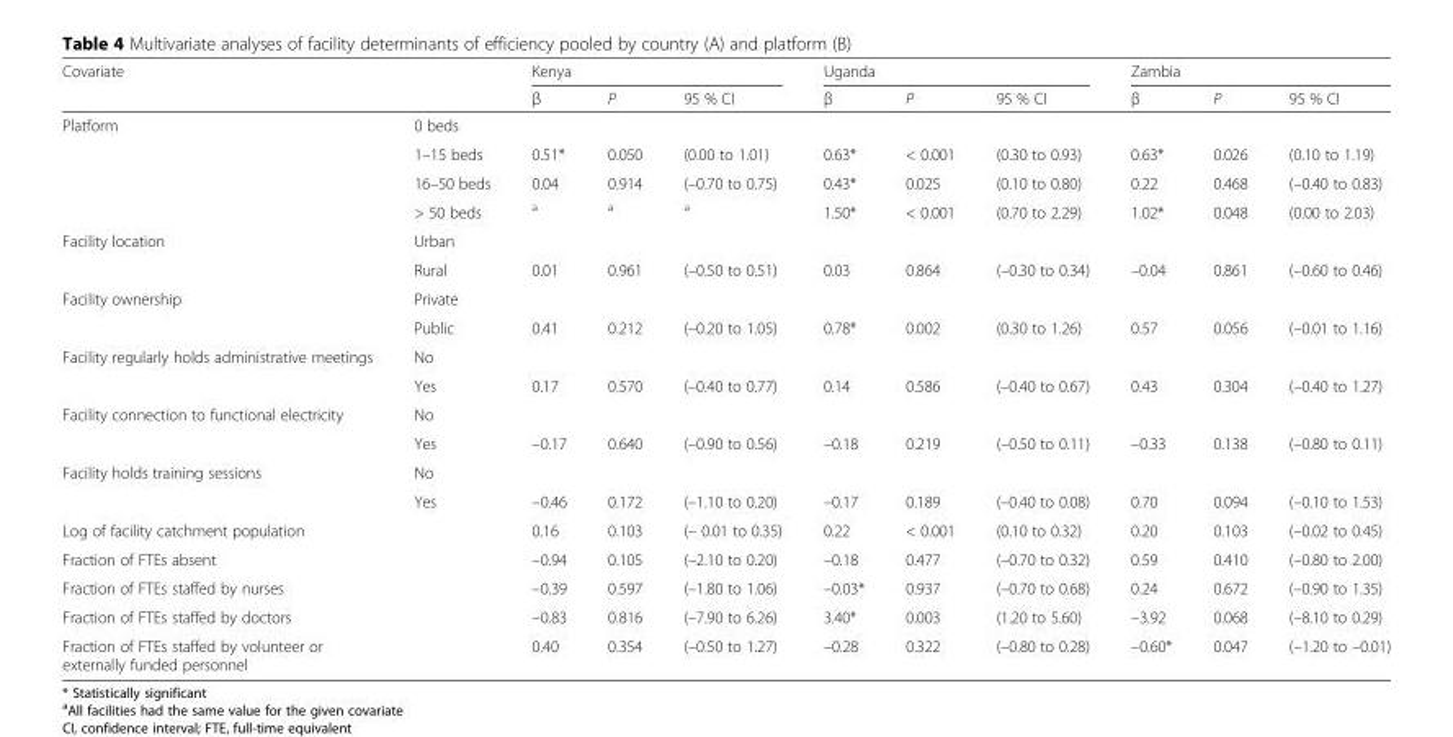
<table><thead><tr><td rowspan="2" colspan="2">Covariate</td><td colspan="3">Kenya</td><td colspan="3">Uganda</td><td colspan="3">Zambia</td></tr><tr><td rowspan="2">β</td><td rowspan="2">P</td><td rowspan="2">95 % CI</td><td rowspan="2">β</td><td rowspan="2">P</td><td rowspan="2">95 % CI</td><td rowspan="2">β</td><td rowspan="2">P</td><td rowspan="2">95 % CI</td></tr><tr><td>Platform</td><td>0 beds</td></tr></thead><tbody><tr><td></td><td>1–15 beds</td><td>0.51*</td><td>0.050</td><td>(0.00 to 1.01)</td><td>0.63*</td><td>&lt; 0.001</td><td>(0.30 to 0.93)</td><td>0.63*</td><td>0.026</td><td>(0.10 to 1.19)</td></tr><tr><td></td><td>16–50 beds</td><td>0.04</td><td>0.914</td><td>(–0.70 to 0.75)</td><td>0.43*</td><td>0.025</td><td>(0.10 to 0.80)</td><td>0.22</td><td>0.468</td><td>(–0.40 to 0.83)</td></tr><tr><td></td><td>&gt; 50 beds</td><td><sup>a</sup></td><td><sup>a</sup></td><td><sup>a</sup></td><td>1.50*</td><td>&lt; 0.001</td><td>(0.70 to 2.29)</td><td>1.02*</td><td>0.048</td><td>(0.00 to 2.03)</td></tr><tr><td rowspan="2">Facility location</td><td>Urban</td><td></td><td></td><td></td><td></td><td></td><td></td><td></td><td></td><td></td></tr><tr><td>Rural</td><td>0.01</td><td>0.961</td><td>(–0.50 to 0.51)</td><td>0.03</td><td>0.864</td><td>(–0.30 to 0.34)</td><td>–0.04</td><td>0.861</td><td>(–0.60 to 0.46)</td></tr><tr><td rowspan="2">Facility ownership</td><td>Private</td><td></td><td></td><td></td><td></td><td></td><td></td><td></td><td></td><td></td></tr><tr><td>Public</td><td>0.41</td><td>0.212</td><td>(–0.20 to 1.05)</td><td>0.78*</td><td>0.002</td><td>(0.30 to 1.26)</td><td>0.57</td><td>0.056</td><td>(–0.01 to 1.16)</td></tr><tr><td rowspan="2">Facility regularly holds administrative meetings</td><td>No</td><td></td><td></td><td></td><td></td><td></td><td></td><td></td><td></td><td></td></tr><tr><td>Yes</td><td>0.17</td><td>0.570</td><td>(–0.40 to 0.77)</td><td>0.14</td><td>0.586</td><td>(–0.40 to 0.67)</td><td>0.43</td><td>0.304</td><td>(–0.40 to 1.27)</td></tr><tr><td rowspan="2">Facility connection to functional electricity</td><td>No</td><td></td><td></td><td></td><td></td><td></td><td></td><td></td><td></td><td></td></tr><tr><td>Yes</td><td>–0.17</td><td>0.640</td><td>(–0.90 to 0.56)</td><td>–0.18</td><td>0.219</td><td>(–0.50 to 0.11)</td><td>–0.33</td><td>0.138</td><td>(–0.80 to 0.11)</td></tr><tr><td rowspan="2">Facility holds training sessions</td><td>No</td><td></td><td></td><td></td><td></td><td></td><td></td><td></td><td></td><td></td></tr><tr><td>Yes</td><td>–0.46</td><td>0.172</td><td>(–1.10 to 0.20)</td><td>–0.17</td><td>0.189</td><td>(–0.40 to 0.08)</td><td>0.70</td><td>0.094</td><td>(–0.10 to 1.53)</td></tr><tr><td>Log of facility catchment population</td><td></td><td>0.16</td><td>0.103</td><td>(– 0.01 to 0.35)</td><td>0.22</td><td>&lt; 0.001</td><td>(0.10 to 0.32)</td><td>0.20</td><td>0.103</td><td>(–0.02 to 0.45)</td></tr><tr><td>Fraction of FTEs absent</td><td></td><td>–0.94</td><td>0.105</td><td>(–2.10 to 0.20)</td><td>–0.18</td><td>0.477</td><td>(–0.70 to 0.32)</td><td>0.59</td><td>0.410</td><td>(–0.80 to 2.00)</td></tr><tr><td>Fraction of FTEs staffed by nurses</td><td></td><td>–0.39</td><td>0.597</td><td>(–1.80 to 1.06)</td><td>–0.03*</td><td>0.937</td><td>(–0.70 to 0.68)</td><td>0.24</td><td>0.672</td><td>(–0.90 to 1.35)</td></tr><tr><td>Fraction of FTEs staffed by doctors</td><td></td><td>–0.83</td><td>0.816</td><td>(–7.90 to 6.26)</td><td>3.40*</td><td>0.003</td><td>(1.20 to 5.60)</td><td>–3.92</td><td>0.068</td><td>(–8.10 to 0.29)</td></tr><tr><td>Fraction of FTEs staffed by volunteer or externally funded personnel</td><td></td><td>0.40</td><td>0.354</td><td>(–0.50 to 1.27)</td><td>–0.28</td><td>0.322</td><td>(–0.80 to 0.28)</td><td>–0.60*</td><td>0.047</td><td>(–1.20 to –0.01)</td></tr></tbody></table>